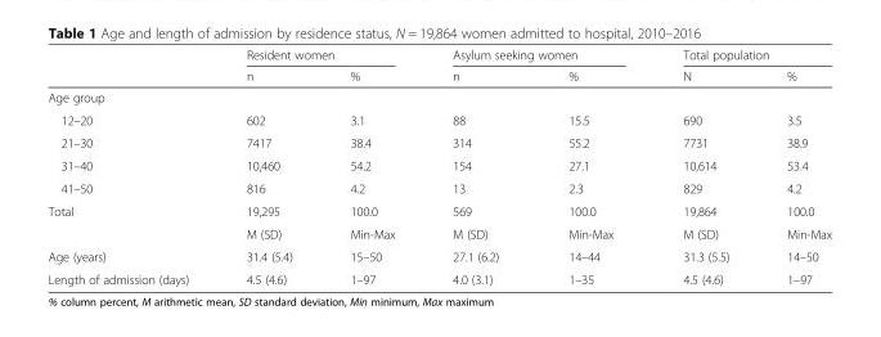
<table><thead><tr><td rowspan="2"></td><td colspan="2">Resident women</td><td colspan="2">Asylum seeking women</td><td colspan="2">Total population</td></tr><tr><td>n</td><td>%</td><td>n</td><td>%</td><td>N</td><td>%</td></tr></thead><tbody><tr><td colspan="7">Age group</td></tr><tr><td>12–20</td><td>602</td><td>3.1</td><td>88</td><td>15.5</td><td>690</td><td>3.5</td></tr><tr><td>21–30</td><td>7417</td><td>38.4</td><td>314</td><td>55.2</td><td>7731</td><td>38.9</td></tr><tr><td>31–40</td><td>10,460</td><td>54.2</td><td>154</td><td>27.1</td><td>10,614</td><td>53.4</td></tr><tr><td>41–50</td><td>816</td><td>4.2</td><td>13</td><td>2.3</td><td>829</td><td>4.2</td></tr><tr><td rowspan="2">Total</td><td>19,295</td><td>100.0</td><td>569</td><td>100.0</td><td>19,864</td><td>100.0</td></tr><tr><td>M (SD)</td><td>Min-Max</td><td>M (SD)</td><td>Min-Max</td><td>M (SD)</td><td>Min-Max</td></tr><tr><td>Age (years)</td><td>31.4 (5.4)</td><td>15–50</td><td>27.1 (6.2)</td><td>14–44</td><td>31.3 (5.5)</td><td>14–50</td></tr><tr><td>Length of admission (days)</td><td>4.5 (4.6)</td><td>1–97</td><td>4.0 (3.1)</td><td>1–35</td><td>4.5 (4.6)</td><td>1–97</td></tr></tbody></table>